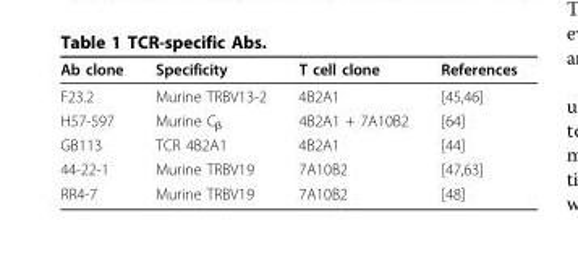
<table><thead><tr><td>Ab clone</td><td>Specificity</td><td>T cell clone</td><td>References</td></tr></thead><tbody><tr><td>F23.2</td><td>Murine TRBV13-2</td><td>4B2A1</td><td>[45,46]</td></tr><tr><td>H57-597</td><td>Murine C<sub>β</sub></td><td>4B2A1 + 7A10B2</td><td>[64]</td></tr><tr><td>GB113</td><td>TCR 4B2A1</td><td>4B2A1</td><td>[44]</td></tr><tr><td>44-22-1</td><td>Murine TRBV19</td><td>7A10B2</td><td>[47,63]</td></tr><tr><td>RR4-7</td><td>Murine TRBV19</td><td>7A10B2</td><td>[48]</td></tr></tbody></table>